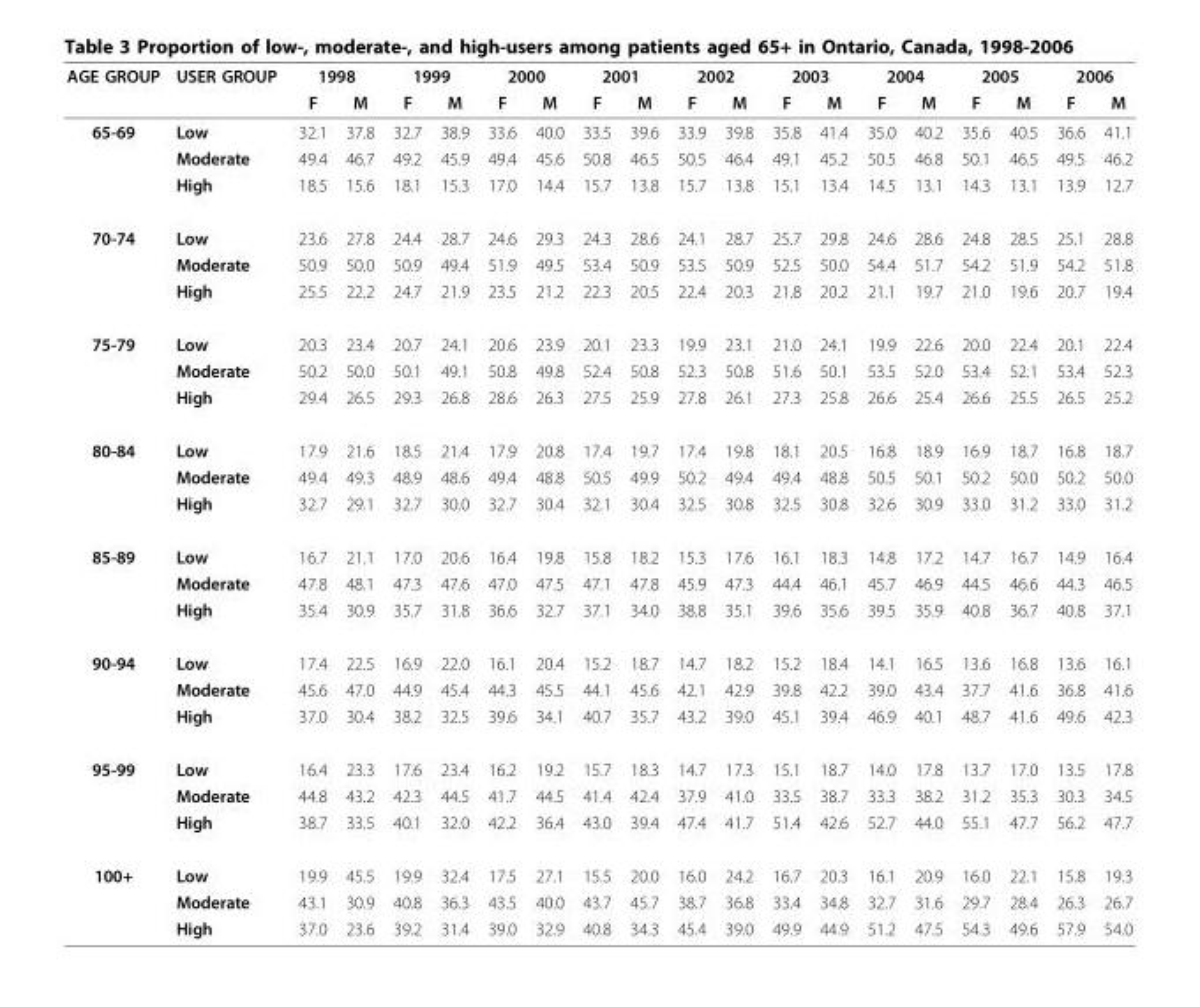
<table><thead><tr><td rowspan="2">AGE GROUP</td><td rowspan="2">USER GROUP</td><td colspan="2">1998</td><td colspan="2">1999</td><td colspan="2">2000</td><td colspan="2">2001</td><td colspan="2">2002</td><td colspan="2">2003</td><td colspan="2">2004</td><td colspan="2">2005</td><td colspan="2">2006</td></tr><tr><td>F</td><td>M</td><td>F</td><td>M</td><td>F</td><td>M</td><td>F</td><td>M</td><td>F</td><td>M</td><td>F</td><td>M</td><td>F</td><td>M</td><td>F</td><td>M</td><td>F</td><td>M</td></tr></thead><tbody><tr><td rowspan="3">65-69</td><td>Low</td><td>32.1</td><td>37.8</td><td>32.7</td><td>38.9</td><td>33.6</td><td>40.0</td><td>33.5</td><td>39.6</td><td>33.9</td><td>39.8</td><td>35.8</td><td>41.4</td><td>35.0</td><td>40.2</td><td>35.6</td><td>40.5</td><td>36.6</td><td>41.1</td></tr><tr><td>Moderate</td><td>49.4</td><td>46.7</td><td>49.2</td><td>45.9</td><td>49.4</td><td>45.6</td><td>50.8</td><td>46.5</td><td>50.5</td><td>46.4</td><td>49.1</td><td>45.2</td><td>50.5</td><td>46.8</td><td>50.1</td><td>46.5</td><td>49.5</td><td>46.2</td></tr><tr><td>High</td><td>18.5</td><td>15.6</td><td>18.1</td><td>15.3</td><td>17.0</td><td>14.4</td><td>15.7</td><td>13.8</td><td>15.7</td><td>13.8</td><td>15.1</td><td>13.4</td><td>14.5</td><td>13.1</td><td>14.3</td><td>13.1</td><td>13.9</td><td>12.7</td></tr><tr><td rowspan="3">70-74</td><td>Low</td><td>23.6</td><td>27.8</td><td>24.4</td><td>28.7</td><td>24.6</td><td>29.3</td><td>24.3</td><td>28.6</td><td>24.1</td><td>28.7</td><td>25.7</td><td>29.8</td><td>24.6</td><td>28.6</td><td>24.8</td><td>28.5</td><td>25.1</td><td>28.8</td></tr><tr><td>Moderate</td><td>50.9</td><td>50.0</td><td>50.9</td><td>49.4</td><td>51.9</td><td>49.5</td><td>53.4</td><td>50.9</td><td>53.5</td><td>50.9</td><td>52.5</td><td>50.0</td><td>54.4</td><td>51.7</td><td>54.2</td><td>51.9</td><td>54.2</td><td>51.8</td></tr><tr><td>High</td><td>25.5</td><td>22.2</td><td>24.7</td><td>21.9</td><td>23.5</td><td>21.2</td><td>22.3</td><td>20.5</td><td>22.4</td><td>20.3</td><td>21.8</td><td>20.2</td><td>21.1</td><td>19.7</td><td>21.0</td><td>19.6</td><td>20.7</td><td>19.4</td></tr><tr><td rowspan="3">75-79</td><td>Low</td><td>20.3</td><td>23.4</td><td>20.7</td><td>24.1</td><td>20.6</td><td>23.9</td><td>20.1</td><td>23.3</td><td>19.9</td><td>23.1</td><td>21.0</td><td>24.1</td><td>19.9</td><td>22.6</td><td>20.0</td><td>22.4</td><td>20.1</td><td>22.4</td></tr><tr><td>Moderate</td><td>50.2</td><td>50.0</td><td>50.1</td><td>49.1</td><td>50.8</td><td>49.8</td><td>52.4</td><td>50.8</td><td>52.3</td><td>50.8</td><td>51.6</td><td>50.1</td><td>53.5</td><td>52.0</td><td>53.4</td><td>52.1</td><td>53.4</td><td>52.3</td></tr><tr><td>High</td><td>29.4</td><td>26.5</td><td>29.3</td><td>26.8</td><td>28.6</td><td>26.3</td><td>27.5</td><td>25.9</td><td>27.8</td><td>26.1</td><td>27.3</td><td>25.8</td><td>26.6</td><td>25.4</td><td>26.6</td><td>25.5</td><td>26.5</td><td>25.2</td></tr><tr><td rowspan="3">80-84</td><td>Low</td><td>17.9</td><td>21.6</td><td>18.5</td><td>21.4</td><td>17.9</td><td>20.8</td><td>17.4</td><td>19.7</td><td>17.4</td><td>19.8</td><td>18.1</td><td>20.5</td><td>16.8</td><td>18.9</td><td>16.9</td><td>18.7</td><td>16.8</td><td>18.7</td></tr><tr><td>Moderate</td><td>49.4</td><td>49.3</td><td>48.9</td><td>48.6</td><td>49.4</td><td>48.8</td><td>50.5</td><td>49.9</td><td>50.2</td><td>49.4</td><td>49.4</td><td>48.8</td><td>50.5</td><td>50.1</td><td>50.2</td><td>50.0</td><td>50.2</td><td>50.0</td></tr><tr><td>High</td><td>32.7</td><td>29.1</td><td>32.7</td><td>30.0</td><td>32.7</td><td>30.4</td><td>32.1</td><td>30.4</td><td>32.5</td><td>30.8</td><td>32.5</td><td>30.8</td><td>32.6</td><td>30.9</td><td>33.0</td><td>31.2</td><td>33.0</td><td>31.2</td></tr><tr><td rowspan="3">85-89</td><td>Low</td><td>16.7</td><td>21.1</td><td>17.0</td><td>20.6</td><td>16.4</td><td>19.8</td><td>15.8</td><td>18.2</td><td>15.3</td><td>17.6</td><td>16.1</td><td>18.3</td><td>14.8</td><td>17.2</td><td>14.7</td><td>16.7</td><td>14.9</td><td>16.4</td></tr><tr><td>Moderate</td><td>47.8</td><td>48.1</td><td>47.3</td><td>47.6</td><td>47.0</td><td>47.5</td><td>47.1</td><td>47.8</td><td>45.9</td><td>47.3</td><td>44.4</td><td>46.1</td><td>45.7</td><td>46.9</td><td>44.5</td><td>46.6</td><td>44.3</td><td>46.5</td></tr><tr><td>High</td><td>35.4</td><td>30.9</td><td>35.7</td><td>31.8</td><td>36.6</td><td>32.7</td><td>37.1</td><td>34.0</td><td>38.8</td><td>35.1</td><td>39.6</td><td>35.6</td><td>39.5</td><td>35.9</td><td>40.8</td><td>36.7</td><td>40.8</td><td>37.1</td></tr><tr><td rowspan="3">90-94</td><td>Low</td><td>17.4</td><td>22.5</td><td>16.9</td><td>22.0</td><td>16.1</td><td>20.4</td><td>15.2</td><td>18.7</td><td>14.7</td><td>18.2</td><td>15.2</td><td>18.4</td><td>14.1</td><td>16.5</td><td>13.6</td><td>16.8</td><td>13.6</td><td>16.1</td></tr><tr><td>Moderate</td><td>45.6</td><td>47.0</td><td>44.9</td><td>45.4</td><td>44.3</td><td>45.5</td><td>44.1</td><td>45.6</td><td>42.1</td><td>42.9</td><td>39.8</td><td>42.2</td><td>39.0</td><td>43.4</td><td>37.7</td><td>41.6</td><td>36.8</td><td>41.6</td></tr><tr><td>High</td><td>37.0</td><td>30.4</td><td>38.2</td><td>32.5</td><td>39.6</td><td>34.1</td><td>40.7</td><td>35.7</td><td>43.2</td><td>39.0</td><td>45.1</td><td>39.4</td><td>46.9</td><td>40.1</td><td>48.7</td><td>41.6</td><td>49.6</td><td>42.3</td></tr><tr><td rowspan="3">95-99</td><td>Low</td><td>16.4</td><td>23.3</td><td>17.6</td><td>23.4</td><td>16.2</td><td>19.2</td><td>15.7</td><td>18.3</td><td>14.7</td><td>17.3</td><td>15.1</td><td>18.7</td><td>14.0</td><td>17.8</td><td>13.7</td><td>17.0</td><td>13.5</td><td>17.8</td></tr><tr><td>Moderate</td><td>44.8</td><td>43.2</td><td>42.3</td><td>44.5</td><td>41.7</td><td>44.5</td><td>41.4</td><td>42.4</td><td>37.9</td><td>41.0</td><td>33.5</td><td>38.7</td><td>33.3</td><td>38.2</td><td>31.2</td><td>35.3</td><td>30.3</td><td>34.5</td></tr><tr><td>High</td><td>38.7</td><td>33.5</td><td>40.1</td><td>32.0</td><td>42.2</td><td>36.4</td><td>43.0</td><td>39.4</td><td>47.4</td><td>41.7</td><td>51.4</td><td>42.6</td><td>52.7</td><td>44.0</td><td>55.1</td><td>47.7</td><td>56.2</td><td>47.7</td></tr><tr><td rowspan="3">100+</td><td>Low</td><td>19.9</td><td>45.5</td><td>19.9</td><td>32.4</td><td>17.5</td><td>27.1</td><td>15.5</td><td>20.0</td><td>16.0</td><td>24.2</td><td>16.7</td><td>20.3</td><td>16.1</td><td>20.9</td><td>16.0</td><td>22.1</td><td>15.8</td><td>19.3</td></tr><tr><td>Moderate</td><td>43.1</td><td>30.9</td><td>40.8</td><td>36.3</td><td>43.5</td><td>40.0</td><td>43.7</td><td>45.7</td><td>38.7</td><td>36.8</td><td>33.4</td><td>34.8</td><td>32.7</td><td>31.6</td><td>29.7</td><td>28.4</td><td>26.3</td><td>26.7</td></tr><tr><td>High</td><td>37.0</td><td>23.6</td><td>39.2</td><td>31.4</td><td>39.0</td><td>32.9</td><td>40.8</td><td>34.3</td><td>45.4</td><td>39.0</td><td>49.9</td><td>44.9</td><td>51.2</td><td>47.5</td><td>54.3</td><td>49.6</td><td>57.9</td><td>54.0</td></tr></tbody></table>